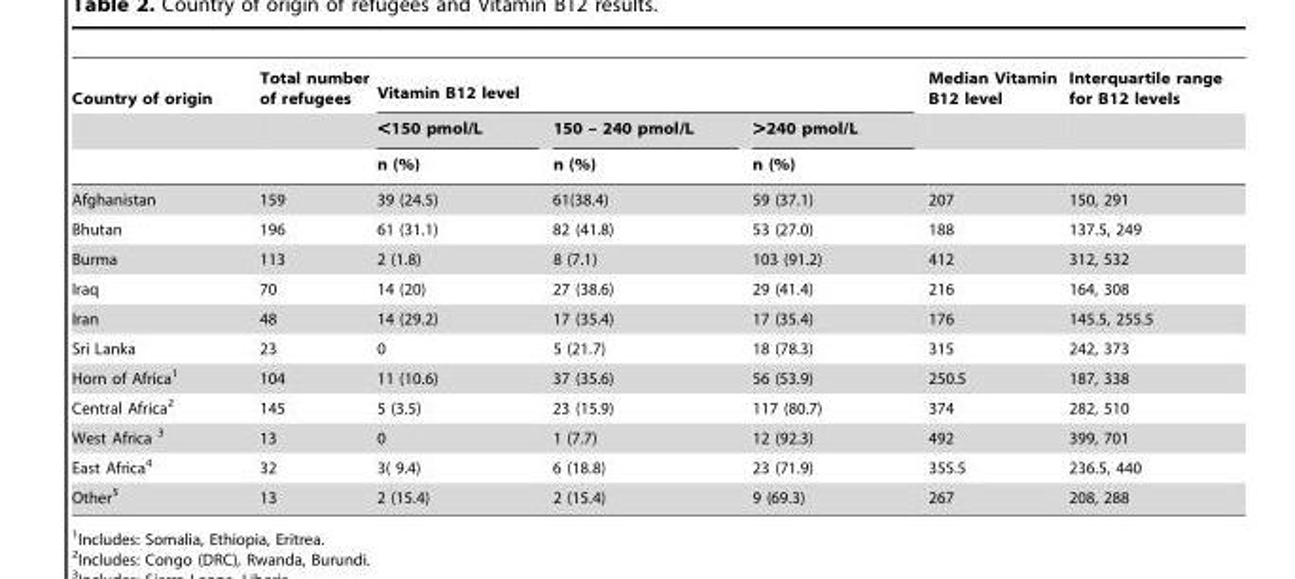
<table><thead><tr><td rowspan="3">Country of origin</td><td rowspan="3">Total number of refugees</td><td colspan="3">Vitamin B12 level</td><td rowspan="3">Median Vitamin B12 level</td><td rowspan="3">Interquartile range for B12 levels</td></tr><tr><td rowspan="2">&lt;150 pmol/L n (%)</td><td rowspan="2">150 – 240 pmol/L n (%)</td><td rowspan="2">&gt;240 pmol/L n (%)</td></tr><tr></tr></thead><tbody><tr><td>Afghanistan</td><td>159</td><td>39 (24.5)</td><td>61(38.4)</td><td>59 (37.1)</td><td>207</td><td>150, 291</td></tr><tr><td>Bhutan</td><td>196</td><td>61 (31.1)</td><td>82 (41.8)</td><td>53 (27.0)</td><td>188</td><td>137.5, 249</td></tr><tr><td>Burma</td><td>113</td><td>2 (1.8)</td><td>8 (7.1)</td><td>103 (91.2)</td><td>412</td><td>312, 532</td></tr><tr><td>Iraq</td><td>70</td><td>14 (20)</td><td>27 (38.6)</td><td>29 (41.4)</td><td>216</td><td>164, 308</td></tr><tr><td>Iran</td><td>48</td><td>14 (29.2)</td><td>17 (35.4)</td><td>17 (35.4)</td><td>176</td><td>145.5, 255.5</td></tr><tr><td>Sri Lanka</td><td>23</td><td>0</td><td>5 (21.7)</td><td>18 (78.3)</td><td>315</td><td>242, 373</td></tr><tr><td>Horn of Africa<sup>1</sup></td><td>104</td><td>11 (10.6)</td><td>37 (35.6)</td><td>56 (53.9)</td><td>250.5</td><td>187, 338</td></tr><tr><td>Central Africa<sup>2</sup></td><td>145</td><td>5 (3.5)</td><td>23 (15.9)</td><td>117 (80.7)</td><td>374</td><td>282, 510</td></tr><tr><td>West Africa 3</td><td>13</td><td>0</td><td>1 (7.7)</td><td>12 (92.3)</td><td>492</td><td>399, 701</td></tr><tr><td>East Africa<sup>4</sup></td><td>32</td><td>3( 9.4)</td><td>6 (18.8)</td><td>23 (71.9)</td><td>355.5</td><td>236.5, 440</td></tr><tr><td>Other<sup>5</sup></td><td>13</td><td>2 (15.4)</td><td>2 (15.4)</td><td>9 (69.3)</td><td>267</td><td>208, 288</td></tr></tbody></table>